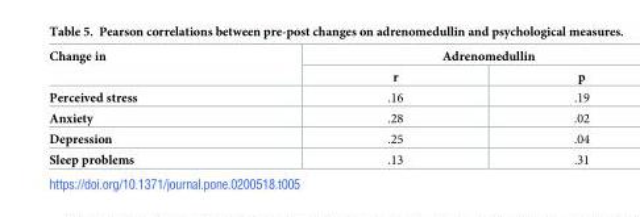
<table><thead><tr><td rowspan="2">Change in</td><td colspan="2">Adrenomedullin</td></tr><tr><td>r</td><td>p</td></tr></thead><tbody><tr><td>Perceived stress</td><td>.16</td><td>.19</td></tr><tr><td>Anxiety</td><td>.28</td><td>.02</td></tr><tr><td>Depression</td><td>.25</td><td>.04</td></tr><tr><td>Sleep problems</td><td>.13</td><td>.31</td></tr></tbody></table>